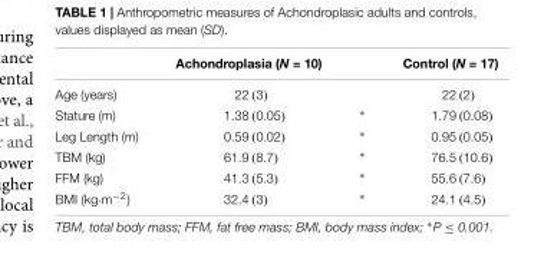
<table><thead><tr><td></td><td>Achondroplasia (N = 10)</td><td></td><td>Control (N = 17)</td></tr></thead><tbody><tr><td>Age (years)</td><td>22 (3)</td><td></td><td>22 (2)</td></tr><tr><td>Stature (m)</td><td>1.38 (0.05)</td><td>∗</td><td>1.79 (0.08)</td></tr><tr><td>Leg Length (m)</td><td>0.59 (0.02)</td><td>∗</td><td>0.95 (0.05)</td></tr><tr><td>TBM (kg)</td><td>61.9 (8.7)</td><td>∗</td><td>76.5 (10.6)</td></tr><tr><td>FFM (kg)</td><td>41.3 (5.3)</td><td>∗</td><td>55.6 (7.6)</td></tr><tr><td>BMI (kg·m−2)</td><td>32.4 (3)</td><td>∗</td><td>24.1 (4.5)</td></tr></tbody></table>